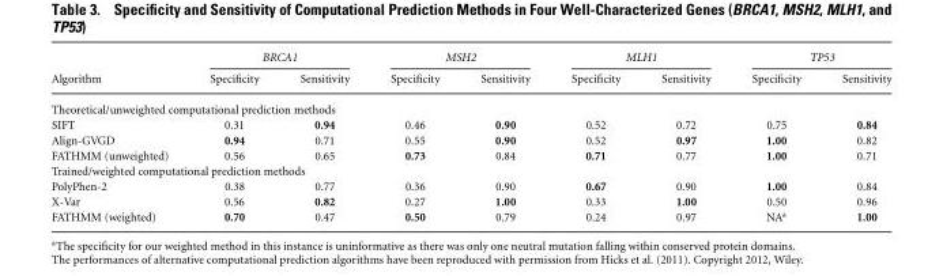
<table><thead><tr><td rowspan="2">Algorithm</td><td colspan="2">BRCA1</td><td colspan="2">MSH2</td><td colspan="2">MLH1</td><td colspan="2">TP53</td></tr><tr><td>Specificity</td><td>Sensitivity</td><td>Specificity</td><td>Sensitivity</td><td>Specificity</td><td>Sensitivity</td><td>Specificity</td><td>Sensitivity</td></tr></thead><tbody><tr><td colspan="9">Theoretical/unweighted computational prediction methods</td></tr><tr><td>SIFT</td><td>0.31</td><td>0.94</td><td>0.46</td><td>0.90</td><td>0.52</td><td>0.72</td><td>0.75</td><td>0.84</td></tr><tr><td>Align-GVGD</td><td>0.94</td><td>0.71</td><td>0.55</td><td>0.90</td><td>0.52</td><td>0.97</td><td>1.00</td><td>0.82</td></tr><tr><td>FATHMM (unweighted)</td><td>0.56</td><td>0.65</td><td>0.73</td><td>0.84</td><td>0.71</td><td>0.77</td><td>1.00</td><td>0.71</td></tr><tr><td colspan="9">Trained/weighted computational prediction methods</td></tr><tr><td>PolyPhen-2</td><td>0.38</td><td>0.77</td><td>0.36</td><td>0.90</td><td>0.67</td><td>0.90</td><td>1.00</td><td>0.84</td></tr><tr><td>X-Var</td><td>0.56</td><td>0.82</td><td>0.27</td><td>1.00</td><td>0.33</td><td>1.00</td><td>0.50</td><td>0.96</td></tr><tr><td>FATHMM (weighted)</td><td>0.70</td><td>0.47</td><td>0.50</td><td>0.79</td><td>0.24</td><td>0.97</td><td>NA<sup>a</sup></td><td>1.00</td></tr></tbody></table>